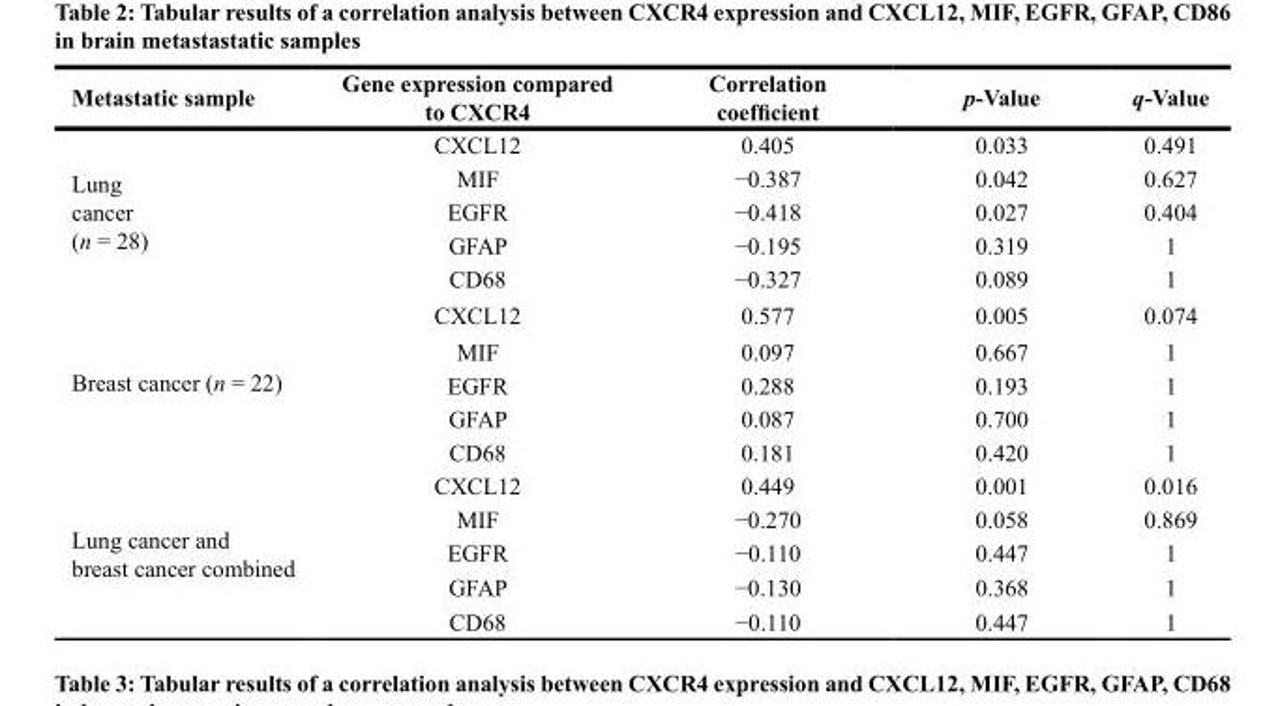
<table><thead><tr><td>Metastatic sample</td><td>Gene expression compared to CXCR4</td><td>Correlation coefficient</td><td>p-Value</td><td>q-Value</td></tr></thead><tbody><tr><td rowspan="5">Lung cancer (n = 28)</td><td>CXCL12</td><td>0.405</td><td>0.033</td><td>0.491</td></tr><tr><td>MIF</td><td>−0.387</td><td>0.042</td><td>0.627</td></tr><tr><td>EGFR</td><td>−0.418</td><td>0.027</td><td>0.404</td></tr><tr><td>GFAP</td><td>−0.195</td><td>0.319</td><td>1</td></tr><tr><td>CD68</td><td>−0.327</td><td>0.089</td><td>1</td></tr><tr><td rowspan="5">Breast cancer (n = 22)</td><td>CXCL12</td><td>0.577</td><td>0.005</td><td>0.074</td></tr><tr><td>MIF</td><td>0.097</td><td>0.667</td><td>1</td></tr><tr><td>EGFR</td><td>0.288</td><td>0.193</td><td>1</td></tr><tr><td>GFAP</td><td>0.087</td><td>0.700</td><td>1</td></tr><tr><td>CD68</td><td>0.181</td><td>0.420</td><td>1</td></tr><tr><td rowspan="5">Lung cancer and breast cancer combined</td><td>CXCL12</td><td>0.449</td><td>0.001</td><td>0.016</td></tr><tr><td>MIF</td><td>−0.270</td><td>0.058</td><td>0.869</td></tr><tr><td>EGFR</td><td>−0.110</td><td>0.447</td><td>1</td></tr><tr><td>GFAP</td><td>−0.130</td><td>0.368</td><td>1</td></tr><tr><td>CD68</td><td>−0.110</td><td>0.447</td><td>1</td></tr></tbody></table>